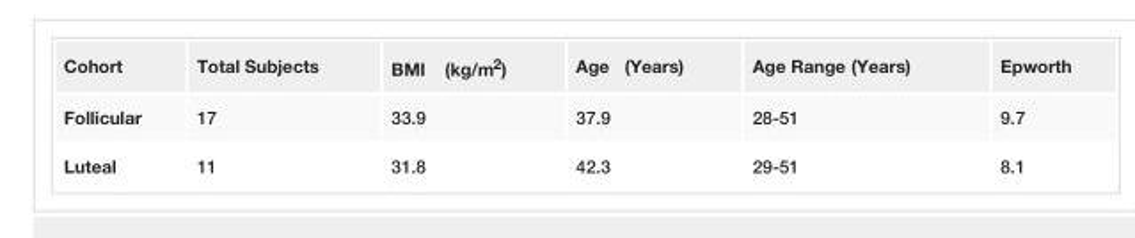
<table><tbody><tr><td>Cohort</td><td>Total Subjects</td><td>BMI (kg/m<sup>2</sup>)</td><td>Age (Years)</td><td>Age Range (Years)</td><td>Epworth</td></tr><tr><td>Follicular</td><td>17</td><td>33.9</td><td>37.9</td><td>28-51</td><td>9.7</td></tr><tr><td>Luteal</td><td>11</td><td>31.8</td><td>42.3</td><td>29-51</td><td>8.1</td></tr></tbody></table>